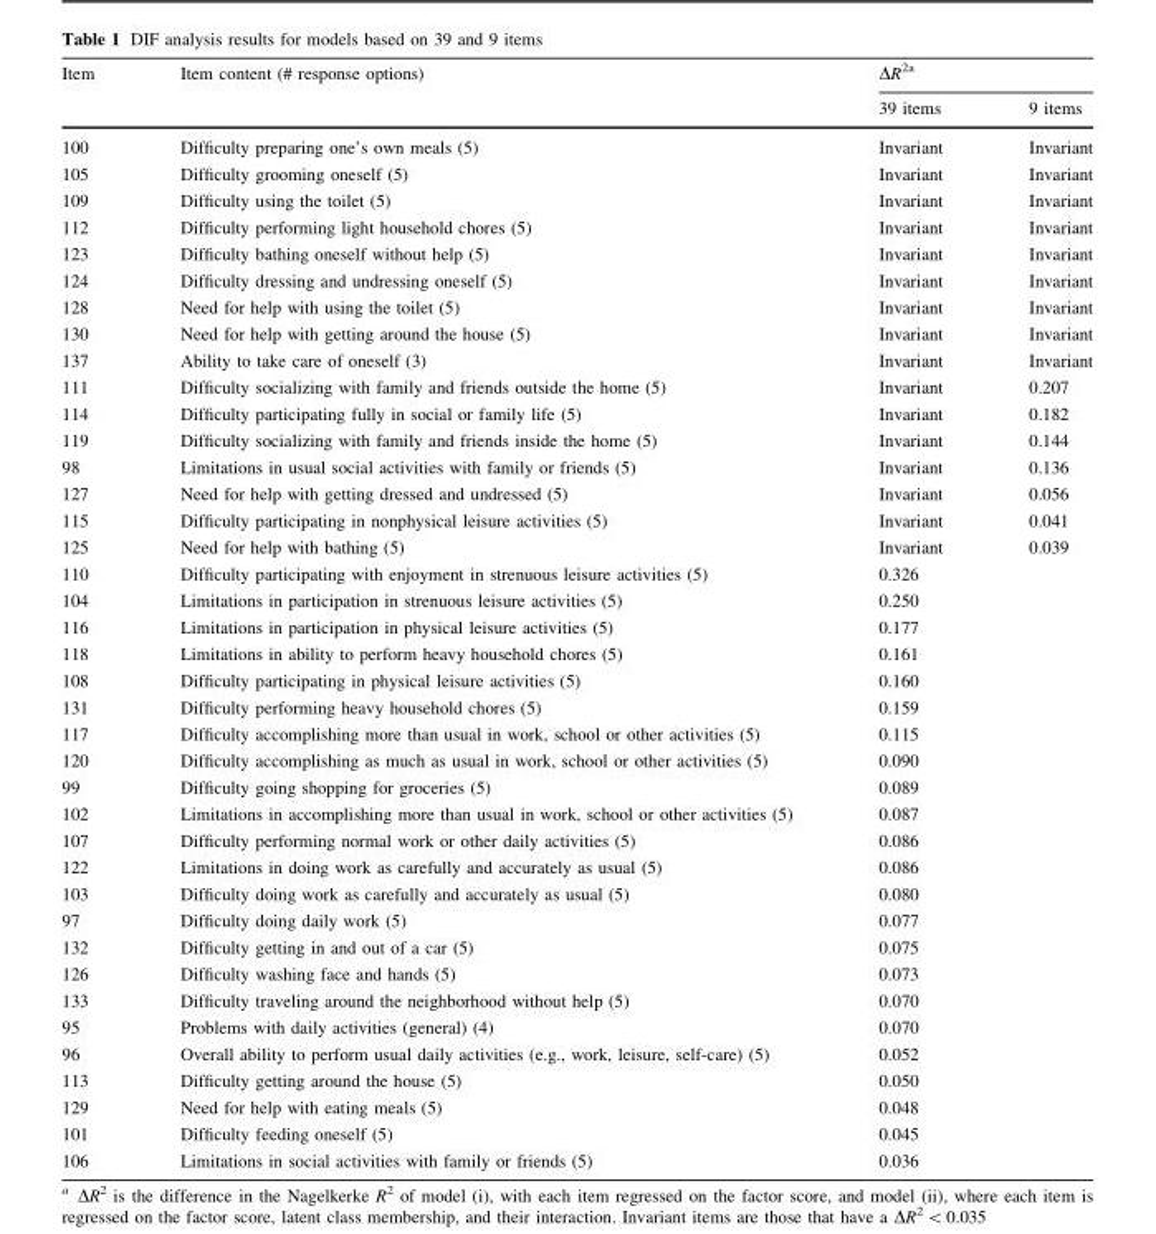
<table><thead><tr><td rowspan="2">Item</td><td rowspan="2">Item content (# response options)</td><td colspan="2">ΔR<sup>2a</sup></td></tr><tr><td>39 items</td><td>9 items</td></tr></thead><tbody><tr><td>100</td><td>Difficulty preparing one’s own meals (5)</td><td>Invariant</td><td>Invariant</td></tr><tr><td>105</td><td>Difficulty grooming oneself (5)</td><td>Invariant</td><td>Invariant</td></tr><tr><td>109</td><td>Difficulty using the toilet (5)</td><td>Invariant</td><td>Invariant</td></tr><tr><td>112</td><td>Difficulty performing light household chores (5)</td><td>Invariant</td><td>Invariant</td></tr><tr><td>123</td><td>Difficulty bathing oneself without help (5)</td><td>Invariant</td><td>Invariant</td></tr><tr><td>124</td><td>Difficulty dressing and undressing oneself (5)</td><td>Invariant</td><td>Invariant</td></tr><tr><td>128</td><td>Need for help with using the toilet (5)</td><td>Invariant</td><td>Invariant</td></tr><tr><td>130</td><td>Need for help with getting around the house (5)</td><td>Invariant</td><td>Invariant</td></tr><tr><td>137</td><td>Ability to take care of oneself (3)</td><td>Invariant</td><td>Invariant</td></tr><tr><td>111</td><td>Difficulty socializing with family and friends outside the home (5)</td><td>Invariant</td><td>0.207</td></tr><tr><td>114</td><td>Difficulty participating fully in social or family life (5)</td><td>Invariant</td><td>0.182</td></tr><tr><td>119</td><td>Difficulty socializing with family and friends inside the home (5)</td><td>Invariant</td><td>0.144</td></tr><tr><td>98</td><td>Limitations in usual social activities with family or friends (5)</td><td>Invariant</td><td>0.136</td></tr><tr><td>127</td><td>Need for help with getting dressed and undressed (5)</td><td>Invariant</td><td>0.056</td></tr><tr><td>115</td><td>Difficulty participating in nonphysical leisure activities (5)</td><td>Invariant</td><td>0.041</td></tr><tr><td>125</td><td>Need for help with bathing (5)</td><td>Invariant</td><td>0.039</td></tr><tr><td>110</td><td>Difficulty participating with enjoyment in strenuous leisure activities (5)</td><td>0.326</td><td></td></tr><tr><td>104</td><td>Limitations in participation in strenuous leisure activities (5)</td><td>0.250</td><td></td></tr><tr><td>116</td><td>Limitations in participation in physical leisure activities (5)</td><td>0.177</td><td></td></tr><tr><td>118</td><td>Limitations in ability to perform heavy household chores (5)</td><td>0.161</td><td></td></tr><tr><td>108</td><td>Difficulty participating in physical leisure activities (5)</td><td>0.160</td><td></td></tr><tr><td>131</td><td>Difficulty performing heavy household chores (5)</td><td>0.159</td><td></td></tr><tr><td>117</td><td>Difficulty accomplishing more than usual in work, school or other activities (5)</td><td>0.115</td><td></td></tr><tr><td>120</td><td>Difficulty accomplishing as much as usual in work, school or other activities (5)</td><td>0.090</td><td></td></tr><tr><td>99</td><td>Difficulty going shopping for groceries (5)</td><td>0.089</td><td></td></tr><tr><td>102</td><td>Limitations in accomplishing more than usual in work, school or other activities (5)</td><td>0.087</td><td></td></tr><tr><td>107</td><td>Difficulty performing normal work or other daily activities (5)</td><td>0.086</td><td></td></tr><tr><td>122</td><td>Limitations in doing work as carefully and accurately as usual (5)</td><td>0.086</td><td></td></tr><tr><td>103</td><td>Difficulty doing work as carefully and accurately as usual (5)</td><td>0.080</td><td></td></tr><tr><td>97</td><td>Difficulty doing daily work (5)</td><td>0.077</td><td></td></tr><tr><td>132</td><td>Difficulty getting in and out of a car (5)</td><td>0.075</td><td></td></tr><tr><td>126</td><td>Difficulty washing face and hands (5)</td><td>0.073</td><td></td></tr><tr><td>133</td><td>Difficulty traveling around the neighborhood without help (5)</td><td>0.070</td><td></td></tr><tr><td>95</td><td>Problems with daily activities (general) (4)</td><td>0.070</td><td></td></tr><tr><td>96</td><td>Overall ability to perform usual daily activities (e.g., work, leisure, self-care) (5)</td><td>0.052</td><td></td></tr><tr><td>113</td><td>Difficulty getting around the house (5)</td><td>0.050</td><td></td></tr><tr><td>129</td><td>Need for help with eating meals (5)</td><td>0.048</td><td></td></tr><tr><td>101</td><td>Difficulty feeding oneself (5)</td><td>0.045</td><td></td></tr><tr><td>106</td><td>Limitations in social activities with family or friends (5)</td><td>0.036</td><td></td></tr></tbody></table>